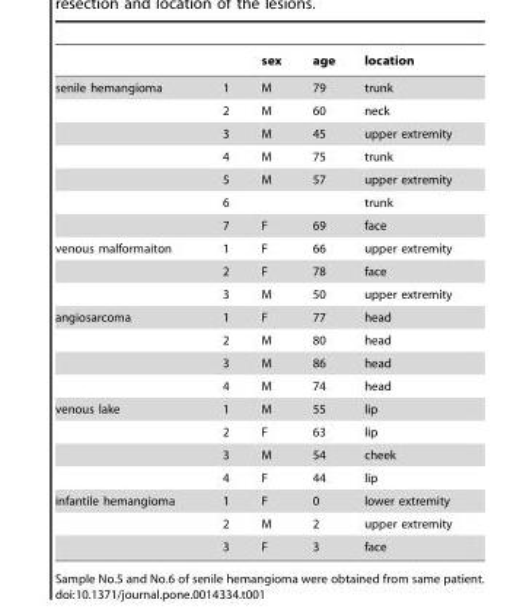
<table><thead><tr><td></td><td></td><td>sex</td><td>age</td><td>location</td></tr></thead><tbody><tr><td rowspan="7">senile hemangioma</td><td>1</td><td>M</td><td>79</td><td>trunk</td></tr><tr><td>2</td><td>M</td><td>60</td><td>neck</td></tr><tr><td>3</td><td>M</td><td>45</td><td>upper extremity</td></tr><tr><td>4</td><td>M</td><td>75</td><td>trunk</td></tr><tr><td>5</td><td>M</td><td>57</td><td>upper extremity</td></tr><tr><td>6</td><td></td><td></td><td>trunk</td></tr><tr><td>7</td><td>F</td><td>69</td><td>face</td></tr><tr><td rowspan="3">venous malformaiton</td><td>1</td><td>F</td><td>66</td><td>upper extremity</td></tr><tr><td>2</td><td>F</td><td>78</td><td>face</td></tr><tr><td>3</td><td>M</td><td>50</td><td>upper extremity</td></tr><tr><td rowspan="4">angiosarcoma</td><td>1</td><td>F</td><td>77</td><td>head</td></tr><tr><td>2</td><td>M</td><td>80</td><td>head</td></tr><tr><td>3</td><td>M</td><td>86</td><td>head</td></tr><tr><td>4</td><td>M</td><td>74</td><td>head</td></tr><tr><td rowspan="4">venous lake</td><td>1</td><td>M</td><td>55</td><td>lip</td></tr><tr><td>2</td><td>F</td><td>63</td><td>lip</td></tr><tr><td>3</td><td>M</td><td>54</td><td>cheek</td></tr><tr><td>4</td><td>F</td><td>44</td><td>lip</td></tr><tr><td rowspan="3">infantile hemangioma</td><td>1</td><td>F</td><td>0</td><td>lower extremity</td></tr><tr><td>2</td><td>M</td><td>2</td><td>upper extremity</td></tr><tr><td>3</td><td>F</td><td>3</td><td>face</td></tr></tbody></table>